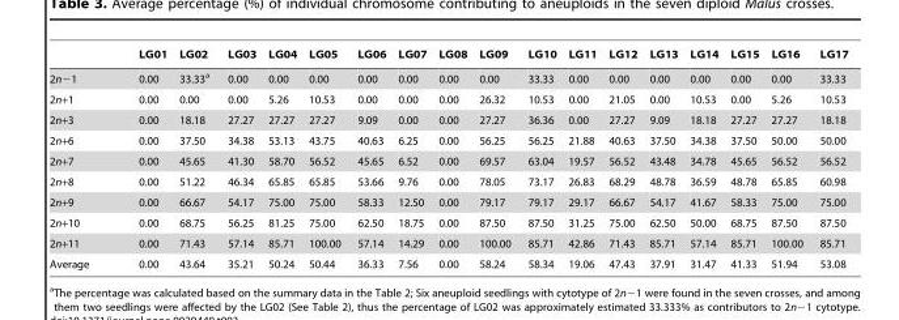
<table><thead><tr><td></td><td>LG01</td><td>LG02</td><td>LG03</td><td>LG04</td><td>LG05</td><td>LG06</td><td>LG07</td><td>LG08</td><td>LG09</td><td>LG10</td><td>LG11</td><td>LG12</td><td>LG13</td><td>LG14</td><td>LG15</td><td>LG16</td><td>LG17</td></tr></thead><tbody><tr><td>2n−1</td><td>0.00</td><td>33.33<sup>a</sup></td><td>0.00</td><td>0.00</td><td>0.00</td><td>0.00</td><td>0.00</td><td>0.00</td><td>0.00</td><td>33.33</td><td>0.00</td><td>0.00</td><td>0.00</td><td>0.00</td><td>0.00</td><td>0.00</td><td>33.33</td></tr><tr><td>2n+1</td><td>0.00</td><td>0.00</td><td>0.00</td><td>5.26</td><td>10.53</td><td>0.00</td><td>0.00</td><td>0.00</td><td>26.32</td><td>10.53</td><td>0.00</td><td>21.05</td><td>0.00</td><td>10.53</td><td>0.00</td><td>5.26</td><td>10.53</td></tr><tr><td>2n+3</td><td>0.00</td><td>18.18</td><td>27.27</td><td>27.27</td><td>27.27</td><td>9.09</td><td>0.00</td><td>0.00</td><td>27.27</td><td>36.36</td><td>0.00</td><td>27.27</td><td>9.09</td><td>18.18</td><td>27.27</td><td>27.27</td><td>18.18</td></tr><tr><td>2n+6</td><td>0.00</td><td>37.50</td><td>34.38</td><td>53.13</td><td>43.75</td><td>40.63</td><td>6.25</td><td>0.00</td><td>56.25</td><td>56.25</td><td>21.88</td><td>40.63</td><td>37.50</td><td>34.38</td><td>37.50</td><td>50.00</td><td>50.00</td></tr><tr><td>2n+7</td><td>0.00</td><td>45.65</td><td>41.30</td><td>58.70</td><td>56.52</td><td>45.65</td><td>6.52</td><td>0.00</td><td>69.57</td><td>63.04</td><td>19.57</td><td>56.52</td><td>43.48</td><td>34.78</td><td>45.65</td><td>56.52</td><td>56.52</td></tr><tr><td>2n+8</td><td>0.00</td><td>51.22</td><td>46.34</td><td>65.85</td><td>65.85</td><td>53.66</td><td>9.76</td><td>0.00</td><td>78.05</td><td>73.17</td><td>26.83</td><td>68.29</td><td>48.78</td><td>36.59</td><td>48.78</td><td>65.85</td><td>60.98</td></tr><tr><td>2n+9</td><td>0.00</td><td>66.67</td><td>54.17</td><td>75.00</td><td>75.00</td><td>58.33</td><td>12.50</td><td>0.00</td><td>79.17</td><td>79.17</td><td>29.17</td><td>66.67</td><td>54.17</td><td>41.67</td><td>58.33</td><td>75.00</td><td>75.00</td></tr><tr><td>2n+10</td><td>0.00</td><td>68.75</td><td>56.25</td><td>81.25</td><td>75.00</td><td>62.50</td><td>18.75</td><td>0.00</td><td>87.50</td><td>87.50</td><td>31.25</td><td>75.00</td><td>62.50</td><td>50.00</td><td>68.75</td><td>87.50</td><td>87.50</td></tr><tr><td>2n+11</td><td>0.00</td><td>71.43</td><td>57.14</td><td>85.71</td><td>100.00</td><td>57.14</td><td>14.29</td><td>0.00</td><td>100.00</td><td>85.71</td><td>42.86</td><td>71.43</td><td>85.71</td><td>57.14</td><td>85.71</td><td>100.00</td><td>85.71</td></tr><tr><td>Average</td><td>0.00</td><td>43.64</td><td>35.21</td><td>50.24</td><td>50.44</td><td>36.33</td><td>7.56</td><td>0.00</td><td>58.24</td><td>58.34</td><td>19.06</td><td>47.43</td><td>37.91</td><td>31.47</td><td>41.33</td><td>51.94</td><td>53.08</td></tr></tbody></table>